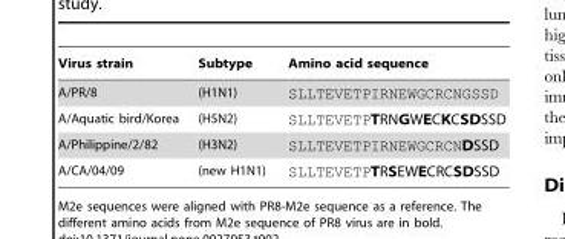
<table><thead><tr><td>Virus strain</td><td>Subtype</td><td>Amino acid sequence</td></tr></thead><tbody><tr><td>A/PR/8</td><td>(H1N1)</td><td>SLLTEVETPIRNEWGCRCNGSSD</td></tr><tr><td>A/Aquatic bird/Korea</td><td>(H5N2)</td><td>SLLTEVETPTRNGWECKCSDSSD</td></tr><tr><td>A/Philippine/2/82</td><td>(H3N2)</td><td>SLLTEVETPIRNEWGCRCNDSSD</td></tr><tr><td>A/CA/04/09</td><td>(new H1N1)</td><td>SLLTEVETPTRSEWECRCSDSSD</td></tr></tbody></table>